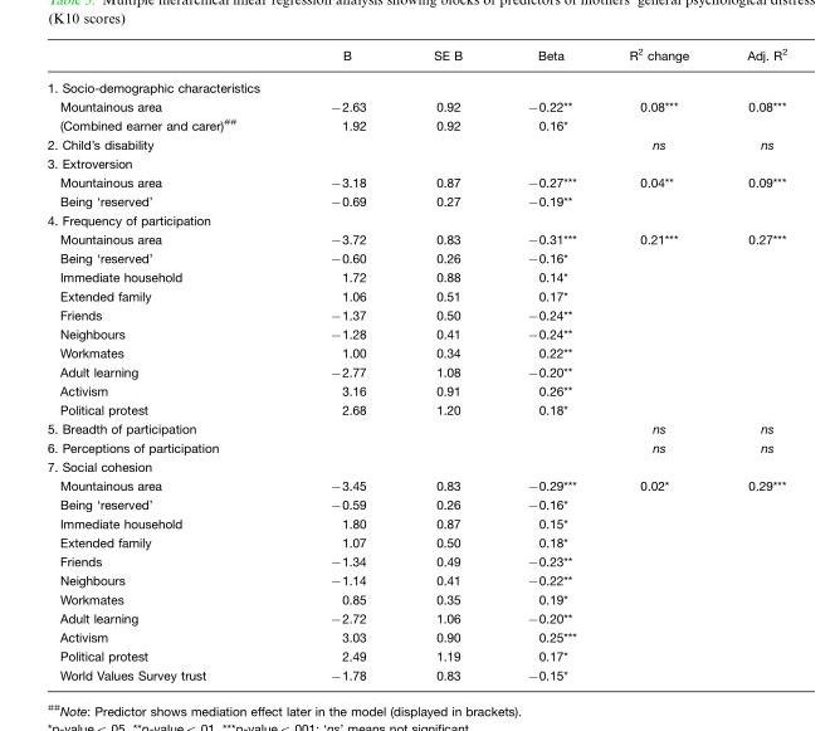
<table><thead><tr><td></td><td>B</td><td>SE B</td><td>Beta</td><td>R<sup>2</sup> change</td><td>Adj. R<sup>2</sup></td></tr></thead><tbody><tr><td colspan="6">1. Socio-demographic characteristics</td></tr><tr><td>Mountainous area</td><td>−2.63</td><td>0.92</td><td>−0.22**</td><td>0.08***</td><td>0.08***</td></tr><tr><td>(Combined earner and carer)##</td><td>1.92</td><td>0.92</td><td>0.16*</td><td></td><td></td></tr><tr><td>2. Child’s disability</td><td></td><td></td><td></td><td>ns</td><td>ns</td></tr><tr><td colspan="6">3. Extroversion</td></tr><tr><td>Mountainous area</td><td>−3.18</td><td>0.87</td><td>−0.27***</td><td>0.04**</td><td>0.09***</td></tr><tr><td>Being ‘reserved’</td><td>−0.69</td><td>0.27</td><td>−0.19**</td><td></td><td></td></tr><tr><td colspan="6">4. Frequency of participation</td></tr><tr><td>Mountainous area</td><td>−3.72</td><td>0.83</td><td>−0.31***</td><td>0.21***</td><td>0.27***</td></tr><tr><td>Being ‘reserved’</td><td>−0.60</td><td>0.26</td><td>−0.16*</td><td></td><td></td></tr><tr><td>Immediate household</td><td>1.72</td><td>0.88</td><td>0.14*</td><td></td><td></td></tr><tr><td>Extended family</td><td>1.06</td><td>0.51</td><td>0.17*</td><td></td><td></td></tr><tr><td>Friends</td><td>−1.37</td><td>0.50</td><td>−0.24**</td><td></td><td></td></tr><tr><td>Neighbours</td><td>−1.28</td><td>0.41</td><td>−0.24**</td><td></td><td></td></tr><tr><td>Workmates</td><td>1.00</td><td>0.34</td><td>0.22**</td><td></td><td></td></tr><tr><td>Adult learning</td><td>−2.77</td><td>1.08</td><td>−0.20**</td><td></td><td></td></tr><tr><td>Activism</td><td>3.16</td><td>0.91</td><td>0.26**</td><td></td><td></td></tr><tr><td>Political protest</td><td>2.68</td><td>1.20</td><td>0.18*</td><td></td><td></td></tr><tr><td>5. Breadth of participation</td><td></td><td></td><td></td><td>ns</td><td>ns</td></tr><tr><td>6. Perceptions of participation</td><td></td><td></td><td></td><td>ns</td><td>ns</td></tr><tr><td colspan="6">7. Social cohesion</td></tr><tr><td>Mountainous area</td><td>−3.45</td><td>0.83</td><td>−0.29***</td><td>0.02*</td><td>0.29***</td></tr><tr><td>Being ‘reserved’</td><td>−0.59</td><td>0.26</td><td>−0.16*</td><td></td><td></td></tr><tr><td>Immediate household</td><td>1.80</td><td>0.87</td><td>0.15*</td><td></td><td></td></tr><tr><td>Extended family</td><td>1.07</td><td>0.50</td><td>0.18*</td><td></td><td></td></tr><tr><td>Friends</td><td>−1.34</td><td>0.49</td><td>−0.23**</td><td></td><td></td></tr><tr><td>Neighbours</td><td>−1.14</td><td>0.41</td><td>−0.22**</td><td></td><td></td></tr><tr><td>Workmates</td><td>0.85</td><td>0.35</td><td>0.19*</td><td></td><td></td></tr><tr><td>Adult learning</td><td>−2.72</td><td>1.06</td><td>−0.20**</td><td></td><td></td></tr><tr><td>Activism</td><td>3.03</td><td>0.90</td><td>0.25***</td><td></td><td></td></tr><tr><td>Political protest</td><td>2.49</td><td>1.19</td><td>0.17*</td><td></td><td></td></tr><tr><td>World Values Survey trust</td><td>−1.78</td><td>0.83</td><td>−0.15*</td><td></td><td></td></tr></tbody></table>